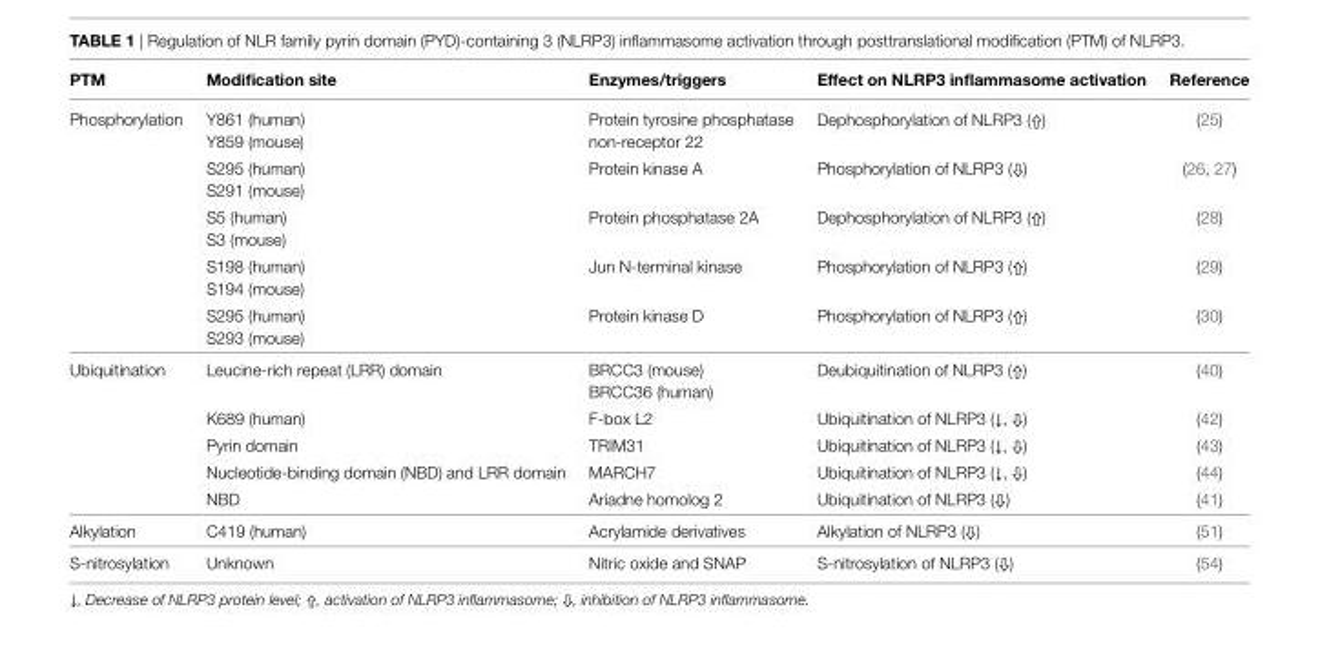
<table><thead><tr><td>PTM</td><td>Modification site</td><td>enzymes/triggers</td><td>effect on nLRP3 inflammasome activation</td><td>Reference</td></tr></thead><tbody><tr><td rowspan="5">Phosphorylation</td><td>Y861 (human) Y859 (mouse)</td><td>Protein tyrosine phosphatase non-receptor 22</td><td>Dephosphorylation of NLRP3 (⇧)</td><td>(25)</td></tr><tr><td>S295 (human) S291 (mouse)</td><td>Protein kinase A</td><td>Phosphorylation of NLRP3 (⇩)</td><td>(26, 27)</td></tr><tr><td>S5 (human) S3 (mouse)</td><td>Protein phosphatase 2A</td><td>Dephosphorylation of NLRP3 (⇧)</td><td>(28)</td></tr><tr><td>S198 (human) S194 (mouse)</td><td>Jun N-terminal kinase</td><td>Phosphorylation of NLRP3 (⇧)</td><td>(29)</td></tr><tr><td>S295 (human) S293 (mouse)</td><td>Protein kinase D</td><td>Phosphorylation of NLRP3 (⇧)</td><td>(30)</td></tr><tr><td rowspan="5">Ubiquitination</td><td>Leucine-rich repeat (LRR) domain</td><td>BRCC3 (mouse) BRCC36 (human)</td><td>Deubiquitination of NLRP3 (⇧)</td><td>(40)</td></tr><tr><td>K689 (human)</td><td>F-box L2</td><td>Ubiquitination of NLRP3 (↓, ⇩)</td><td>(42)</td></tr><tr><td>Pyrin domain</td><td>TRIM31</td><td>Ubiquitination of NLRP3 (↓, ⇩)</td><td>(43)</td></tr><tr><td>Nucleotide-binding domain (NBD) and LRR domain</td><td>MARCH7</td><td>Ubiquitination of NLRP3 (↓, ⇩)</td><td>(44)</td></tr><tr><td>NBD</td><td>Ariadne homolog 2</td><td>Ubiquitination of NLRP3 (⇩)</td><td>(41)</td></tr><tr><td>Alkylation</td><td>C419 (human)</td><td>Acrylamide derivatives</td><td>Alkylation of NLRP3 (⇩)</td><td>(51)</td></tr><tr><td>S-nitrosylation</td><td>Unknown</td><td>Nitric oxide and SNAP</td><td>S-nitrosylation of NLRP3 (⇩)</td><td>(54)</td></tr></tbody></table>